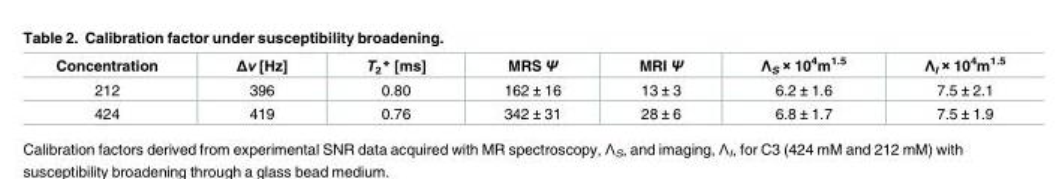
<table><thead><tr><td>Concentration</td><td>Δν [Hz]</td><td>T<sub>2</sub>* [ms]</td><td>MRS Ψ</td><td>MRI Ψ</td><td>Λ<sub>S</sub> × 10<sup>4</sup>m<sup>1.5</sup></td><td>Λ<sub>I</sub> × 10<sup>4</sup>m<sup>1.5</sup></td></tr></thead><tbody><tr><td>212</td><td>396</td><td>0.80</td><td>162 ± 16</td><td>13 ± 3</td><td>6.2 ± 1.6</td><td>7.5 ± 2.1</td></tr><tr><td>424</td><td>419</td><td>0.76</td><td>342 ± 31</td><td>28 ± 6</td><td>6.8 ± 1.7</td><td>7.5 ± 1.9</td></tr></tbody></table>